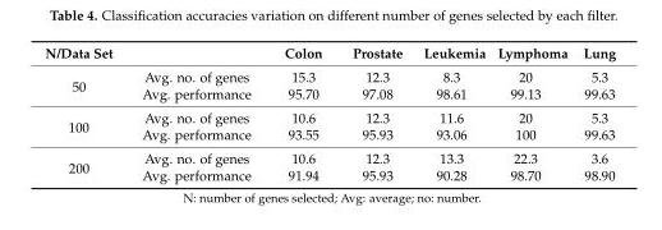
<table><thead><tr><td>N/Data Set</td><td></td><td>Colon</td><td>Prostate</td><td>Leukemia</td><td>Lymphoma</td><td>Lung</td></tr></thead><tbody><tr><td rowspan="2">50</td><td>Avg. no. of genes</td><td>15.3</td><td>12.3</td><td>8.3</td><td>20</td><td>5.3</td></tr><tr><td>Avg. performance</td><td>95.70</td><td>97.08</td><td>98.61</td><td>99.13</td><td>99.63</td></tr><tr><td rowspan="2">100</td><td>Avg. no. of genes</td><td>10.6</td><td>12.3</td><td>11.6</td><td>20</td><td>5.3</td></tr><tr><td>Avg. performance</td><td>93.55</td><td>95.93</td><td>93.06</td><td>100</td><td>99.63</td></tr><tr><td rowspan="2">200</td><td>Avg. no. of genes</td><td>10.6</td><td>12.3</td><td>13.3</td><td>22.3</td><td>3.6</td></tr><tr><td>Avg. performance</td><td>91.94</td><td>95.93</td><td>90.28</td><td>98.70</td><td>98.90</td></tr></tbody></table>